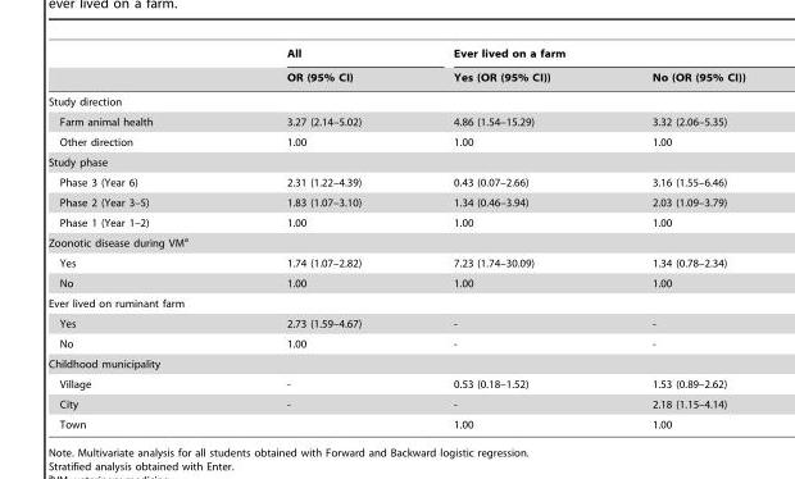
<table><thead><tr><td rowspan="2"></td><td rowspan="2">All OR (95% CI)</td><td colspan="2">Ever lived on a farm</td></tr><tr><td>Yes (OR (95% CI))</td><td>No (OR (95% CI))</td></tr></thead><tbody><tr><td colspan="4">Study direction</td></tr><tr><td>Farm animal health</td><td>3.27 (2.14–5.02)</td><td>4.86 (1.54–15.29)</td><td>3.32 (2.06–5.35)</td></tr><tr><td>Other direction</td><td>1.00</td><td>1.00</td><td>1.00</td></tr><tr><td colspan="4">Study phase</td></tr><tr><td>Phase 3 (Year 6)</td><td>2.31 (1.22–4.39)</td><td>0.43 (0.07–2.66)</td><td>3.16 (1.55–6.46)</td></tr><tr><td>Phase 2 (Year 3–5)</td><td>1.83 (1.07–3.10)</td><td>1.34 (0.46–3.94)</td><td>2.03 (1.09–3.79)</td></tr><tr><td>Phase 1 (Year 1–2)</td><td>1.00</td><td>1.00</td><td>1.00</td></tr><tr><td colspan="4">Zoonotic disease during VM<sup>a</sup></td></tr><tr><td>Yes</td><td>1.74 (1.07–2.82)</td><td>7.23 (1.74–30.09)</td><td>1.34 (0.78–2.34)</td></tr><tr><td>No</td><td>1.00</td><td>1.00</td><td>1.00</td></tr><tr><td colspan="4">Ever lived on ruminant farm</td></tr><tr><td>Yes</td><td>2.73 (1.59–4.67)</td><td>-</td><td>-</td></tr><tr><td>No</td><td>1.00</td><td>-</td><td>-</td></tr><tr><td colspan="4">Childhood municipality</td></tr><tr><td>Village</td><td>-</td><td>0.53 (0.18–1.52)</td><td>1.53 (0.89–2.62)</td></tr><tr><td>City</td><td>-</td><td>-</td><td>2.18 (1.15–4.14)</td></tr><tr><td>Town</td><td></td><td>1.00</td><td>1.00</td></tr></tbody></table>